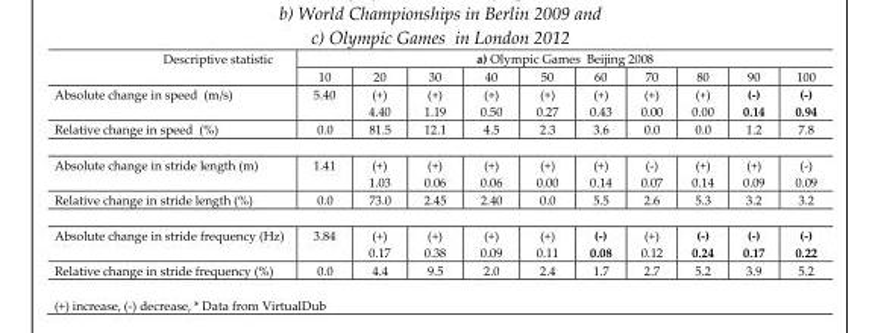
<table><thead><tr><td rowspan="2">Descriptive statistic</td><td colspan="10">a) Olympic Games Beijing 2008</td></tr><tr><td>10</td><td>20</td><td>30</td><td>40</td><td>50</td><td>60</td><td>70</td><td>80</td><td>90</td><td>100</td></tr></thead><tbody><tr><td>Absolute change in speed (m/s)</td><td>5.40</td><td>(+) 4.40</td><td>(+) 1.19</td><td>(+) 0.50</td><td>(+) 0.27</td><td>(+) 0.43</td><td>(+) 0.00</td><td>(+) 0.00</td><td>(-) 0.14</td><td>(-) 0.94</td></tr><tr><td>Relative change in speed (%)</td><td>0.0</td><td>81.5</td><td>12.1</td><td>4.5</td><td>2.3</td><td>3.6</td><td>0.0</td><td>0.0</td><td>1.2</td><td>7.8</td></tr><tr><td>Absolute change in stride length (m)</td><td>1.41</td><td>(+) 1.03</td><td>(+) 0.06</td><td>(+) 0.06</td><td>(+) 0.00</td><td>(+) 0.14</td><td>(-) 0.07</td><td>(+) 0.14</td><td>(+) 0.09</td><td>(-) 0.09</td></tr><tr><td>Relative change in stride length (%)</td><td>0.0</td><td>73.0</td><td>2.45</td><td>2.40</td><td>0.0</td><td>5.5</td><td>2.6</td><td>5.3</td><td>3.2</td><td>3.2</td></tr><tr><td>Absolute change in stride frequency (Hz)</td><td>3.84</td><td>(+) 0.17</td><td>(+) 0.38</td><td>(+) 0.09</td><td>(+) 0.11</td><td>(-) 0.08</td><td>(+) 0.12</td><td>(-) 0.24</td><td>(-) 0.17</td><td>(-) 0.22</td></tr><tr><td>Relative change in stride frequency (%)</td><td>0.0</td><td>4.4</td><td>9.5</td><td>2.0</td><td>2.4</td><td>1.7</td><td>2.7</td><td>5.2</td><td>3.9</td><td>5.2</td></tr></tbody></table>